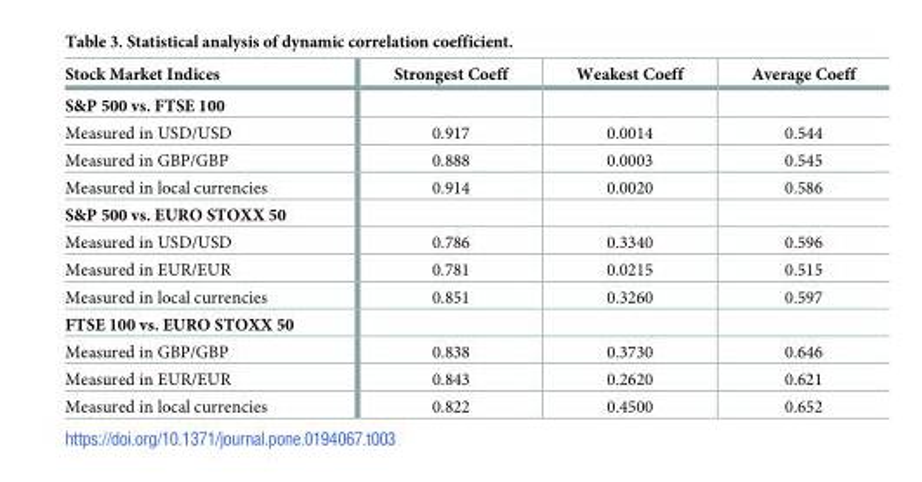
<table><thead><tr><td>Stock Market Indices</td><td>Strongest Coeff</td><td>Weakest Coeff</td><td>Average Coeff</td></tr></thead><tbody><tr><td colspan="4">S&amp;P 500 vs. FTSE 100</td></tr><tr><td>Measured in USD/USD</td><td>0.917</td><td>0.0014</td><td>0.544</td></tr><tr><td>Measured in GBP/GBP</td><td>0.888</td><td>0.0003</td><td>0.545</td></tr><tr><td>Measured in local currencies</td><td>0.914</td><td>0.0020</td><td>0.586</td></tr><tr><td colspan="4">S&amp;P 500 vs. EURO STOXX 50</td></tr><tr><td>Measured in USD/USD</td><td>0.786</td><td>0.3340</td><td>0.596</td></tr><tr><td>Measured in EUR/EUR</td><td>0.781</td><td>0.0215</td><td>0.515</td></tr><tr><td>Measured in local currencies</td><td>0.851</td><td>0.3260</td><td>0.597</td></tr><tr><td colspan="4">FTSE 100 vs. EURO STOXX 50</td></tr><tr><td>Measured in GBP/GBP</td><td>0.838</td><td>0.3730</td><td>0.646</td></tr><tr><td>Measured in EUR/EUR</td><td>0.843</td><td>0.2620</td><td>0.621</td></tr><tr><td>Measured in local currencies</td><td>0.822</td><td>0.4500</td><td>0.652</td></tr></tbody></table>